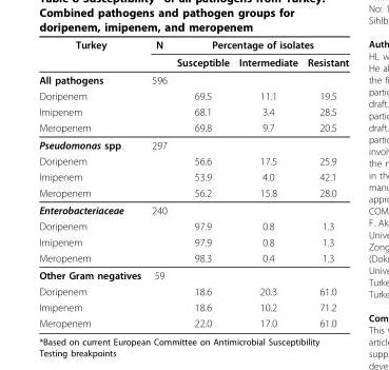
<table><thead><tr><td rowspan="2">Turkey</td><td rowspan="2">N</td><td colspan="3">Percentage of isolates</td></tr><tr><td>Susceptible</td><td>Intermediate</td><td>Resistant</td></tr></thead><tbody><tr><td>All pathogens</td><td>596</td><td></td><td></td><td></td></tr><tr><td>Doripenem</td><td></td><td>69.5</td><td>11.1</td><td>19.5</td></tr><tr><td>Imipenem</td><td></td><td>68.1</td><td>3.4</td><td>28.5</td></tr><tr><td>Meropenem</td><td></td><td>69.8</td><td>9.7</td><td>20.5</td></tr><tr><td>Pseudomonas spp.</td><td>297</td><td></td><td></td><td></td></tr><tr><td>Doripenem</td><td></td><td>56.6</td><td>17.5</td><td>25.9</td></tr><tr><td>Imipenem</td><td></td><td>53.9</td><td>4.0</td><td>42.1</td></tr><tr><td>Meropenem</td><td></td><td>56.2</td><td>15.8</td><td>28.0</td></tr><tr><td>Enterobacteriaceae</td><td>240</td><td></td><td></td><td></td></tr><tr><td>Doripenem</td><td></td><td>97.9</td><td>0.8</td><td>1.3</td></tr><tr><td>Imipenem</td><td></td><td>97.9</td><td>0.8</td><td>1.3</td></tr><tr><td>Meropenem</td><td></td><td>98.3</td><td>0.4</td><td>1.3</td></tr><tr><td>Other Gram negatives</td><td>59</td><td></td><td></td><td></td></tr><tr><td>Doripenem</td><td></td><td>18.6</td><td>20.3</td><td>61.0</td></tr><tr><td>Imipenem</td><td></td><td>18.6</td><td>10.2</td><td>71.2</td></tr><tr><td>Meropenem</td><td></td><td>22.0</td><td>17.0</td><td>61.0</td></tr></tbody></table>